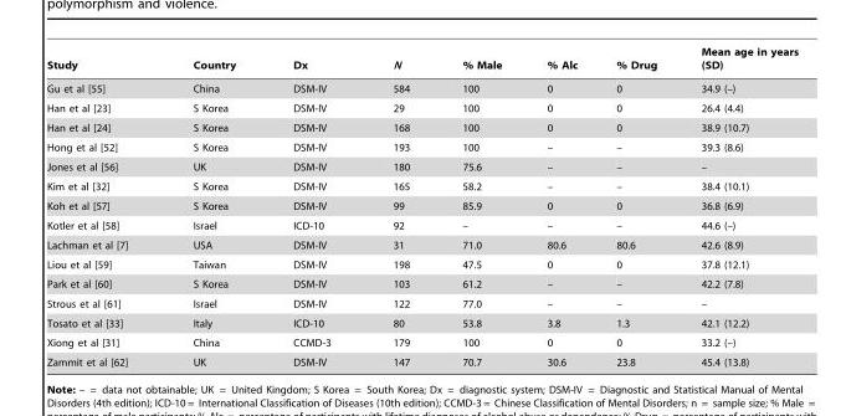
<table><thead><tr><td>Study</td><td>Country</td><td>Dx</td><td>N</td><td>% Male</td><td>% Alc</td><td>% Drug</td><td>Mean age in years (SD)</td></tr></thead><tbody><tr><td>Gu et al [55]</td><td>China</td><td>DSM-IV</td><td>584</td><td>100</td><td>0</td><td>0</td><td>34.9 (–)</td></tr><tr><td>Han et al [23]</td><td>S Korea</td><td>DSM-IV</td><td>29</td><td>100</td><td>0</td><td>0</td><td>26.4 (4.4)</td></tr><tr><td>Han et al [24]</td><td>S Korea</td><td>DSM-IV</td><td>168</td><td>100</td><td>0</td><td>0</td><td>38.9 (10.7)</td></tr><tr><td>Hong et al [52]</td><td>S Korea</td><td>DSM-IV</td><td>193</td><td>100</td><td>–</td><td>–</td><td>39.3 (8.6)</td></tr><tr><td>Jones et al [56]</td><td>UK</td><td>DSM-IV</td><td>180</td><td>75.6</td><td>–</td><td>–</td><td>–</td></tr><tr><td>Kim et al [32]</td><td>S Korea</td><td>DSM-IV</td><td>165</td><td>58.2</td><td>–</td><td>–</td><td>38.4 (10.1)</td></tr><tr><td>Koh et al [57]</td><td>S Korea</td><td>DSM-IV</td><td>99</td><td>85.9</td><td>0</td><td>0</td><td>36.8 (6.9)</td></tr><tr><td>Kotler et al [58]</td><td>Israel</td><td>ICD-10</td><td>92</td><td>–</td><td>–</td><td>–</td><td>44.6 (–)</td></tr><tr><td>Lachman et al [7]</td><td>USA</td><td>DSM-IV</td><td>31</td><td>71.0</td><td>80.6</td><td>80.6</td><td>42.6 (8.9)</td></tr><tr><td>Liou et al [59]</td><td>Taiwan</td><td>DSM-IV</td><td>198</td><td>47.5</td><td>0</td><td>0</td><td>37.8 (12.1)</td></tr><tr><td>Park et al [60]</td><td>S Korea</td><td>DSM-IV</td><td>103</td><td>61.2</td><td>–</td><td>–</td><td>42.2 (7.8)</td></tr><tr><td>Strous et al [61]</td><td>Israel</td><td>DSM-IV</td><td>122</td><td>77.0</td><td>–</td><td>–</td><td>–</td></tr><tr><td>Tosato et al [33]</td><td>Italy</td><td>ICD-10</td><td>80</td><td>53.8</td><td>3.8</td><td>1.3</td><td>42.1 (12.2)</td></tr><tr><td>Xiong et al [31]</td><td>China</td><td>CCMD-3</td><td>179</td><td>100</td><td>0</td><td>0</td><td>33.2 (–)</td></tr><tr><td>Zammit et al [62]</td><td>UK</td><td>DSM-IV</td><td>147</td><td>70.7</td><td>30.6</td><td>23.8</td><td>45.4 (13.8)</td></tr></tbody></table>